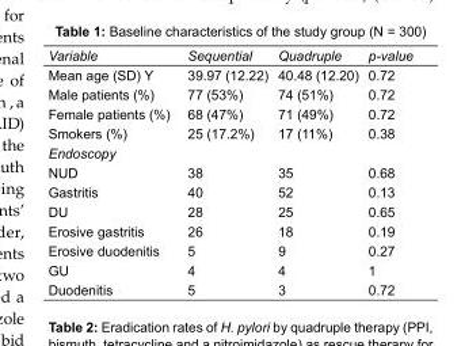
<table><tbody><tr><td>Variable</td><td>Sequential</td><td>Quadruple</td><td>p-value</td></tr><tr><td>Mean age (SD) Y</td><td>39.97 (12.22)</td><td>40.48 (12.20)</td><td>0.72</td></tr><tr><td>Male patients (%)</td><td>77 (53%)</td><td>74 (51%)</td><td>0.72</td></tr><tr><td>Female patients (%)</td><td>68 (47%)</td><td>71 (49%)</td><td>0.72</td></tr><tr><td>Smokers (%)</td><td>25 (17.2%)</td><td>17 (11%)</td><td>0.38</td></tr><tr><td colspan="4">Endoscopy</td></tr><tr><td>NUD</td><td>38</td><td>35</td><td>0.68</td></tr><tr><td>Gastritis</td><td>40</td><td>52</td><td>0.13</td></tr><tr><td>DU</td><td>28</td><td>25</td><td>0.65</td></tr><tr><td>Erosive gastritis</td><td>26</td><td>18</td><td>0.19</td></tr><tr><td>Erosive duodenitis</td><td>5</td><td>9</td><td>0.27</td></tr><tr><td>GU</td><td>4</td><td>4</td><td>1</td></tr><tr><td>Duodenitis</td><td>5</td><td>3</td><td>0.72</td></tr></tbody></table>